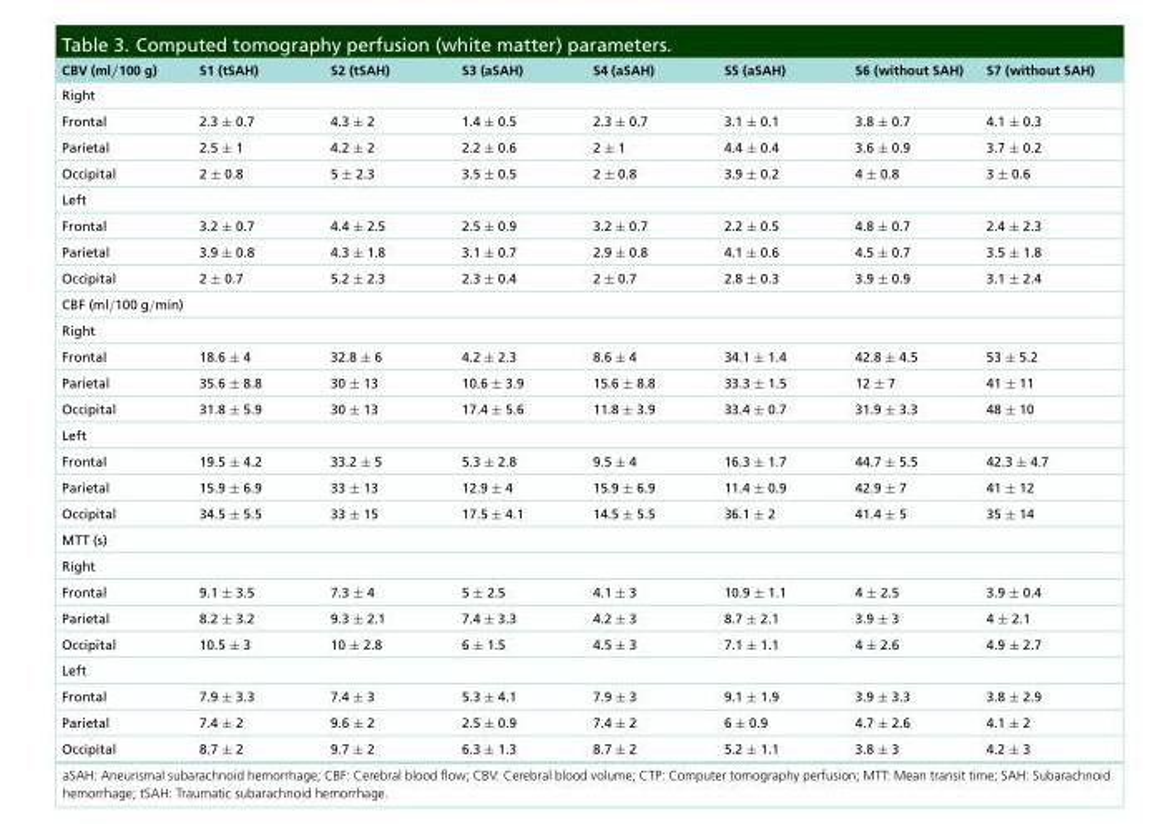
<table><thead><tr><td>CBV (ml/100 g)</td><td>S1 (tSAH)</td><td>S2 (tSAH)</td><td>S3 (aSAH)</td><td>S4 (aSAH)</td><td>S5 (aSAH)</td><td>S6 (without SAH)</td><td>S7 (without SAH)</td></tr></thead><tbody><tr><td colspan="8">Right</td></tr><tr><td>Frontal</td><td>2.3 ± 0.7</td><td>4.3 ± 2</td><td>1.4 ± 0.5</td><td>2.3 ± 0.7</td><td>3.1 ± 0.1</td><td>3.8 ± 0.7</td><td>4.1 ± 0.3</td></tr><tr><td>Parietal</td><td>2.5 ± 1</td><td>4.2 ± 2</td><td>2.2 ± 0.6</td><td>2 ± 1</td><td>4.4 ± 0.4</td><td>3.6 ± 0.9</td><td>3.7 ± 0.2</td></tr><tr><td>Occipital</td><td>2 ± 0.8</td><td>5 ± 2.3</td><td>3.5 ± 0.5</td><td>2 ± 0.8</td><td>3.9 ± 0.2</td><td>4 ± 0.8</td><td>3 ± 0.6</td></tr><tr><td colspan="8">Left</td></tr><tr><td>Frontal</td><td>3.2 ± 0.7</td><td>4.4 ± 2.5</td><td>2.5 ± 0.9</td><td>3.2 ± 0.7</td><td>2.2 ± 0.5</td><td>4.8 ± 0.7</td><td>2.4 ± 2.3</td></tr><tr><td>Parietal</td><td>3.9 ± 0.8</td><td>4.3 ± 1.8</td><td>3.1 ± 0.7</td><td>2.9 ± 0.8</td><td>4.1 ± 0.6</td><td>4.5 ± 0.7</td><td>3.5 ± 1.8</td></tr><tr><td>Occipital</td><td>2 ± 0.7</td><td>5.2 ± 2.3</td><td>2.3 ± 0.4</td><td>2 ± 0.7</td><td>2.8 ± 0.3</td><td>3.9 ± 0.9</td><td>3.1 ± 2.4</td></tr><tr><td colspan="8">CBF (ml/100 g/min)</td></tr><tr><td colspan="8">Right</td></tr><tr><td>Frontal</td><td>18.6 ± 4</td><td>32.8 ± 6</td><td>4.2 ± 2.3</td><td>8.6 ± 4</td><td>34.1 ± 1.4</td><td>42.8 ± 4.5</td><td>53 ± 5.2</td></tr><tr><td>Parietal</td><td>35.6 ± 8.8</td><td>30 ± 13</td><td>10.6 ± 3.9</td><td>15.6 ± 8.8</td><td>33.3 ± 1.5</td><td>12 ± 7</td><td>41 ± 11</td></tr><tr><td>Occipital</td><td>31.8 ± 5.9</td><td>30 ± 13</td><td>17.4 ± 5.6</td><td>11.8 ± 3.9</td><td>33.4 ± 0.7</td><td>31.9 ± 3.3</td><td>48 ± 10</td></tr><tr><td colspan="8">Left</td></tr><tr><td>Frontal</td><td>19.5 ± 4.2</td><td>33.2 ± 5</td><td>5.3 ± 2.8</td><td>9.5 ± 4</td><td>16.3 ± 1.7</td><td>44.7 ± 5.5</td><td>42.3 ± 4.7</td></tr><tr><td>Parietal</td><td>15.9 ± 6.9</td><td>33 ± 13</td><td>12.9 ± 4</td><td>15.9 ± 6.9</td><td>11.4 ± 0.9</td><td>42.9 ± 7</td><td>41 ± 12</td></tr><tr><td>Occipital</td><td>34.5 ± 5.5</td><td>33 ± 15</td><td>17.5 ± 4.1</td><td>14.5 ± 5.5</td><td>36.1 ± 2</td><td>41.4 ± 5</td><td>35 ± 14</td></tr><tr><td colspan="8">MTT (s)</td></tr><tr><td colspan="8">Right</td></tr><tr><td>Frontal</td><td>9.1 ± 3.5</td><td>7.3 ± 4</td><td>5 ± 2.5</td><td>4.1 ± 3</td><td>10.9 ± 1.1</td><td>4 ± 2.5</td><td>3.9 ± 0.4</td></tr><tr><td>Parietal</td><td>8.2 ± 3.2</td><td>9.3 ± 2.1</td><td>7.4 ± 3.3</td><td>4.2 ± 3</td><td>8.7 ± 2.1</td><td>3.9 ± 3</td><td>4 ± 2.1</td></tr><tr><td>Occipital</td><td>10.5 ± 3</td><td>10 ± 2.8</td><td>6 ± 1.5</td><td>4.5 ± 3</td><td>7.1 ± 1.1</td><td>4 ± 2.6</td><td>4.9 ± 2.7</td></tr><tr><td colspan="8">Left</td></tr><tr><td>Frontal</td><td>7.9 ± 3.3</td><td>7.4 ± 3</td><td>5.3 ± 4.1</td><td>7.9 ± 3</td><td>9.1 ± 1.9</td><td>3.9 ± 3.3</td><td>3.8 ± 2.9</td></tr><tr><td>Parietal</td><td>7.4 ± 2</td><td>9.6 ± 2</td><td>2.5 ± 0.9</td><td>7.4 ± 2</td><td>6 ± 0.9</td><td>4.7 ± 2.6</td><td>4.1 ± 2</td></tr><tr><td>Occipital</td><td>8.7 ± 2</td><td>9.7 ± 2</td><td>6.3 ± 1.3</td><td>8.7 ± 2</td><td>5.2 ± 1.1</td><td>3.8 ± 3</td><td>4.2 ± 3</td></tr></tbody></table>